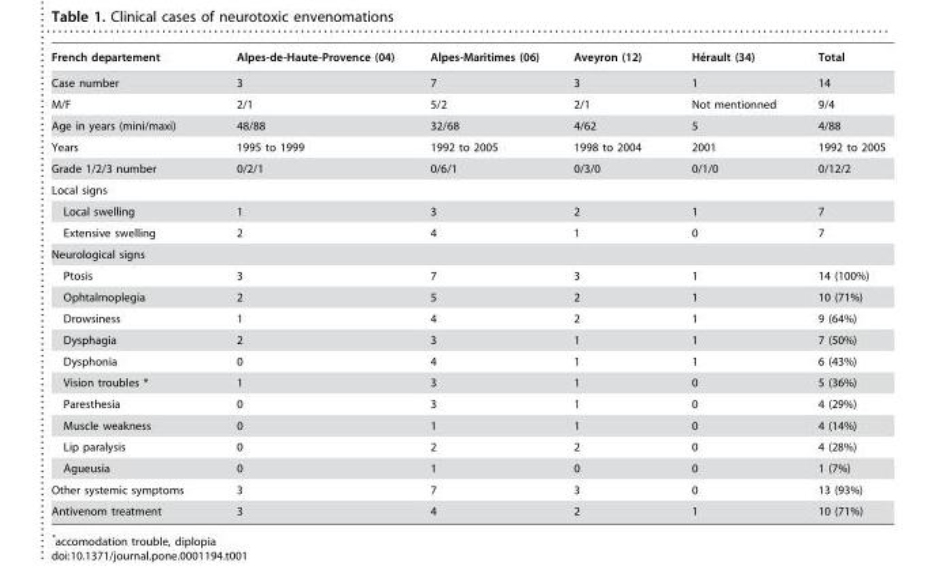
<table><thead><tr><td>French departement</td><td>Alpes-de-Haute-Provence (04)</td><td>Alpes-Maritimes (06)</td><td>Aveyron (12)</td><td>He´rault (34)</td><td>Total</td></tr></thead><tbody><tr><td>Case number</td><td>3</td><td>7</td><td>3</td><td>1</td><td>14</td></tr><tr><td>M/F</td><td>2/1</td><td>5/2</td><td>2/1</td><td>Not mentionned</td><td>9/4</td></tr><tr><td>Age in years (mini/maxi)</td><td>48/88</td><td>32/68</td><td>4/62</td><td>5</td><td>4/88</td></tr><tr><td>Years</td><td>1995 to 1999</td><td>1992 to 2005</td><td>1998 to 2004</td><td>2001</td><td>1992 to 2005</td></tr><tr><td>Grade 1/2/3 number</td><td>0/2/1</td><td>0/6/1</td><td>0/3/0</td><td>0/1/0</td><td>0/12/2</td></tr><tr><td colspan="6">Local signs</td></tr><tr><td>Local swelling</td><td>1</td><td>3</td><td>2</td><td>1</td><td>7</td></tr><tr><td>Extensive swelling</td><td>2</td><td>4</td><td>1</td><td>0</td><td>7</td></tr><tr><td colspan="6">Neurological signs</td></tr><tr><td>Ptosis</td><td>3</td><td>7</td><td>3</td><td>1</td><td>14 (100%)</td></tr><tr><td>Ophtalmoplegia</td><td>2</td><td>5</td><td>2</td><td>1</td><td>10 (71%)</td></tr><tr><td>Drowsiness</td><td>1</td><td>4</td><td>2</td><td>1</td><td>9 (64%)</td></tr><tr><td>Dysphagia</td><td>2</td><td>3</td><td>1</td><td>1</td><td>7 (50%)</td></tr><tr><td>Dysphonia</td><td>0</td><td>4</td><td>1</td><td>1</td><td>6 (43%)</td></tr><tr><td>Vision troubles *</td><td>1</td><td>3</td><td>1</td><td>0</td><td>5 (36%)</td></tr><tr><td>Paresthesia</td><td>0</td><td>3</td><td>1</td><td>0</td><td>4 (29%)</td></tr><tr><td>Muscle weakness</td><td>0</td><td>1</td><td>1</td><td>0</td><td>4 (14%)</td></tr><tr><td>Lip paralysis</td><td>0</td><td>2</td><td>2</td><td>0</td><td>4 (28%)</td></tr><tr><td>Agueusia</td><td>0</td><td>1</td><td>0</td><td>0</td><td>1 (7%)</td></tr><tr><td>Other systemic symptoms</td><td>3</td><td>7</td><td>3</td><td>0</td><td>13 (93%)</td></tr><tr><td>Antivenom treatment</td><td>3</td><td>4</td><td>2</td><td>1</td><td>10 (71%)</td></tr></tbody></table>